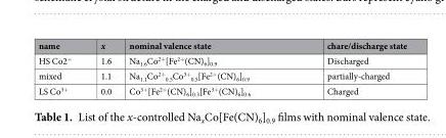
<table><thead><tr><td>name</td><td>x</td><td>nominal valence state</td><td>chare/discharge state</td></tr></thead><tbody><tr><td>HS Co2<sup>+</sup></td><td>1.6</td><td>Na<sub>1.6</sub>Co<sup>2+</sup>[Fe<sup>2+</sup>(CN)<sub>6</sub>]<sub>0.9</sub></td><td>Discharged</td></tr><tr><td>mixed</td><td>1.1</td><td>Na<sub>1.1</sub>Co<sup>2+</sup> <sub>0.5</sub>Co<sup>3+</sup> <sub>0.5</sub>[Fe<sup>2+</sup>(CN)<sub>6</sub>]<sub>0.9</sub></td><td>partially-charged</td></tr><tr><td>LS Co<sup>3+</sup></td><td>0.0</td><td>Co<sup>3+</sup>[Fe<sup>2+</sup>(CN)<sub>6</sub>]<sub>0.3</sub>[Fe<sup>3+</sup>(CN)<sub>6</sub>]<sub>0.6</sub></td><td>Charged</td></tr></tbody></table>